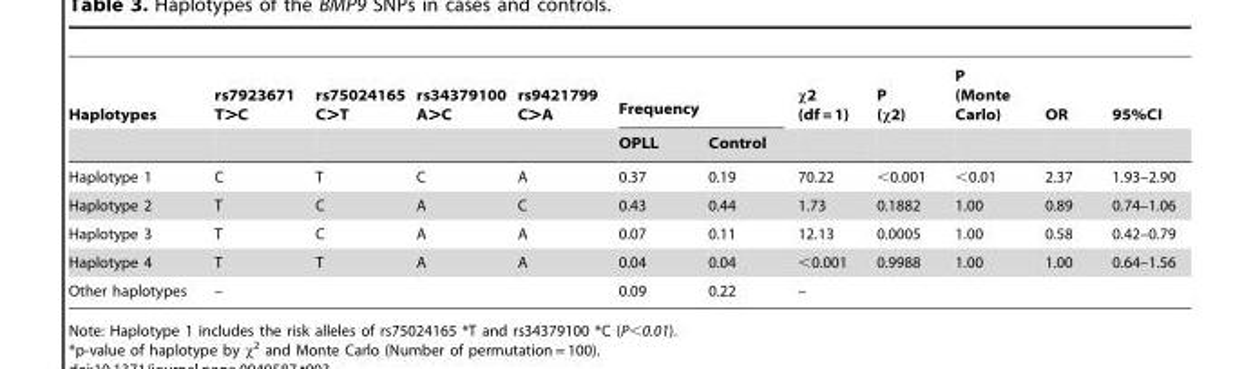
<table><thead><tr><td rowspan="2">Haplotypes</td><td rowspan="2">rs7923671 T&gt;C</td><td rowspan="2">rs75024165 C&gt;T</td><td rowspan="2">rs34379100 A&gt;C</td><td rowspan="2">rs9421799 C&gt;A</td><td colspan="2">Frequency</td><td rowspan="2">χ2 (df = 1)</td><td rowspan="2">P (χ2)</td><td rowspan="2">P (Monte Carlo)</td><td rowspan="2">OR</td><td rowspan="2">95%CI</td></tr><tr><td>OPLL</td><td>Control</td></tr></thead><tbody><tr><td>Haplotype 1</td><td>C</td><td>T</td><td>C</td><td>A</td><td>0.37</td><td>0.19</td><td>70.22</td><td>&lt;0.001</td><td>&lt;0.01</td><td>2.37</td><td>1.93–2.90</td></tr><tr><td>Haplotype 2</td><td>T</td><td>C</td><td>A</td><td>C</td><td>0.43</td><td>0.44</td><td>1.73</td><td>0.1882</td><td>1.00</td><td>0.89</td><td>0.74–1.06</td></tr><tr><td>Haplotype 3</td><td>T</td><td>C</td><td>A</td><td>A</td><td>0.07</td><td>0.11</td><td>12.13</td><td>0.0005</td><td>1.00</td><td>0.58</td><td>0.42–0.79</td></tr><tr><td>Haplotype 4</td><td>T</td><td>T</td><td>A</td><td>A</td><td>0.04</td><td>0.04</td><td>&lt;0.001</td><td>0.9988</td><td>1.00</td><td>1.00</td><td>0.64–1.56</td></tr><tr><td>Other haplotypes</td><td colspan="4">–</td><td>0.09</td><td>0.22</td><td colspan="5">–</td></tr></tbody></table>